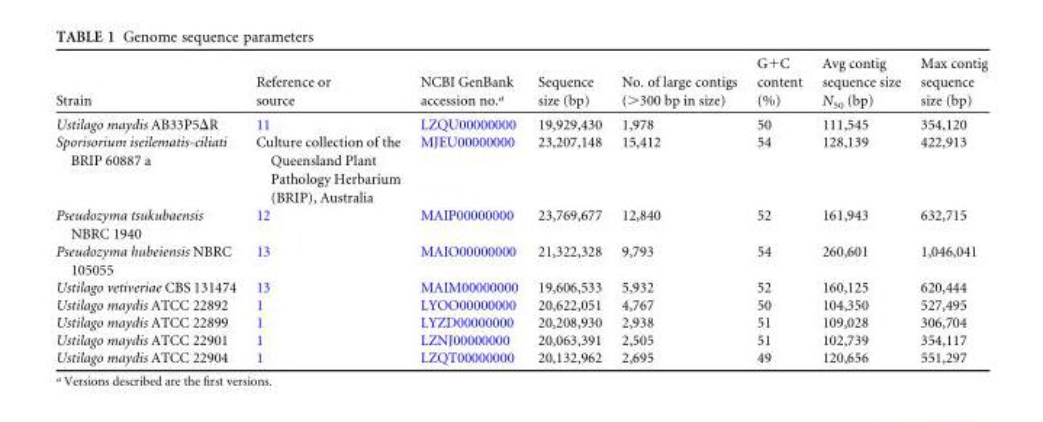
<table><thead><tr><td>Strain</td><td>Reference or source</td><td>NCBI GenBank accession no.<sup>a</sup></td><td>Sequence size (bp)</td><td>No. of large contigs (&gt;300 bp in size)</td><td>G+C content (%)</td><td>Avg contig sequence size N<sub>50</sub> (bp)</td><td>Max contig sequence size (bp)</td></tr></thead><tbody><tr><td>Ustilago maydis AB33P5ΔR</td><td>11</td><td>LZQU00000000</td><td>19,929,430</td><td>1,978</td><td>50</td><td>111,545</td><td>354,120</td></tr><tr><td>Sporisorium iseilematis-ciliati BRIP 60887 a</td><td>Culture collection of the Queensland Plant Pathology Herbarium (BRIP), Australia</td><td>MJEU00000000</td><td>23,207,148</td><td>15,412</td><td>54</td><td>128,139</td><td>422,913</td></tr><tr><td>Pseudozyma tsukubaensis NBRC 1940</td><td>12</td><td>MAIP00000000</td><td>23,769,677</td><td>12,840</td><td>52</td><td>161,943</td><td>632,715</td></tr><tr><td>Pseudozyma hubeiensis NBRC 105055</td><td>13</td><td>MAIO00000000</td><td>21,322,328</td><td>9,793</td><td>54</td><td>260,601</td><td>1,046,041</td></tr><tr><td>Ustilago vetiveriae CBS 131474</td><td>13</td><td>MAIM00000000</td><td>19,606,533</td><td>5,932</td><td>52</td><td>160,125</td><td>620,444</td></tr><tr><td>Ustilago maydis ATCC 22892</td><td>1</td><td>LYOO00000000</td><td>20,622,051</td><td>4,767</td><td>50</td><td>104,350</td><td>527,495</td></tr><tr><td>Ustilago maydis ATCC 22899</td><td>1</td><td>LYZD00000000</td><td>20,208,930</td><td>2,938</td><td>51</td><td>109,028</td><td>306,704</td></tr><tr><td>Ustilago maydis ATCC 22901</td><td>1</td><td>LZNJ00000000</td><td>20,063,391</td><td>2,505</td><td>51</td><td>102,739</td><td>354,117</td></tr><tr><td>Ustilago maydis ATCC 22904</td><td>1</td><td>LZQT00000000</td><td>20,132,962</td><td>2,695</td><td>49</td><td>120,656</td><td>551,297</td></tr></tbody></table>